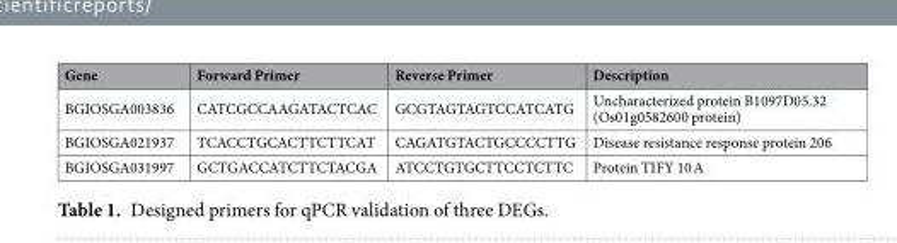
<table><thead><tr><td>Gene</td><td>Forward Primer</td><td>Reverse Primer</td><td>Description</td></tr></thead><tbody><tr><td>BGIOSGA003836</td><td>CATCGCCAAGATACTCAC</td><td>GCGTAGTAGTCCATCATG</td><td>Uncharacterized protein B1097D05.32 (Os01g0582600 protein)</td></tr><tr><td>BGIOSGA021937</td><td>TCACCTGCACTTCTTCAT</td><td>CAGATGTACTGCCCCTTG</td><td>Disease resistance response protein 206</td></tr><tr><td>BGIOSGA031997</td><td>GCTGACCATCTTCTACGA</td><td>ATCCTGTGCTTCCTCTTC</td><td>Protein TIFY 10 A</td></tr></tbody></table>